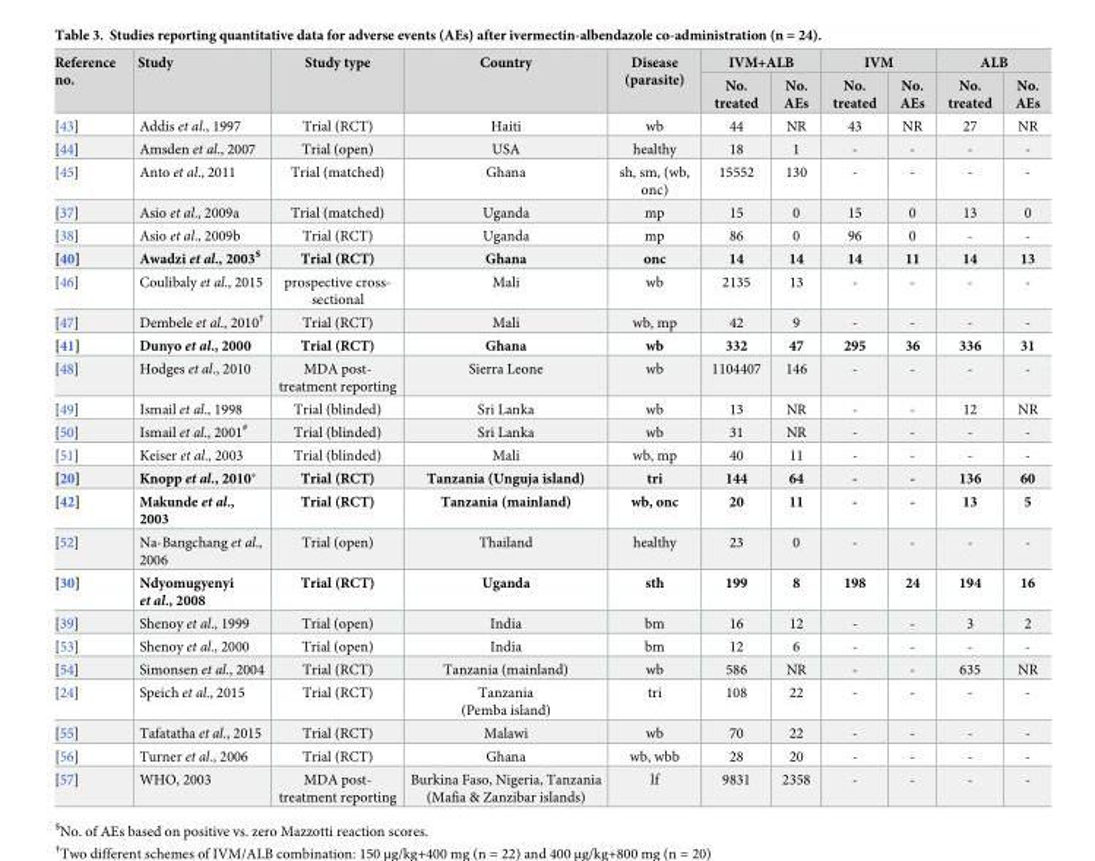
<table><thead><tr><td rowspan="2">Reference no.</td><td rowspan="2">Study</td><td rowspan="2">Study type</td><td rowspan="2">Country</td><td rowspan="2">Disease (parasite)</td><td colspan="2">IVM+ALB</td><td colspan="2">IVM</td><td colspan="2">ALB</td></tr><tr><td>No. treated</td><td>No. AEs</td><td>No. treated</td><td>No. AEs</td><td>No. treated</td><td>No. AEs</td></tr></thead><tbody><tr><td>[43]</td><td>Addis et al., 1997</td><td>Trial (RCT)</td><td>Haiti</td><td>wb</td><td>44</td><td>NR</td><td>43</td><td>NR</td><td>27</td><td>NR</td></tr><tr><td>[44]</td><td>Amsden et al., 2007</td><td>Trial (open)</td><td>USA</td><td>healthy</td><td>18</td><td>1</td><td>-</td><td>-</td><td>-</td><td>-</td></tr><tr><td>[45]</td><td>Anto et al., 2011</td><td>Trial (matched)</td><td>Ghana</td><td>sh, sm, (wb, onc)</td><td>15552</td><td>130</td><td>-</td><td>-</td><td>-</td><td>-</td></tr><tr><td>[37]</td><td>Asio et al., 2009a</td><td>Trial (matched)</td><td>Uganda</td><td>mp</td><td>15</td><td>0</td><td>15</td><td>0</td><td>13</td><td>0</td></tr><tr><td>[38]</td><td>Asio et al., 2009b</td><td>Trial (RCT)</td><td>Uganda</td><td>mp</td><td>86</td><td>0</td><td>96</td><td>0</td><td>-</td><td>-</td></tr><tr><td>[40]</td><td>Awadzi et al., 2003<sup>$</sup></td><td>Trial (RCT)</td><td>Ghana</td><td>onc</td><td>14</td><td>14</td><td>14</td><td>11</td><td>14</td><td>13</td></tr><tr><td>[46]</td><td>Coulibaly et al., 2015</td><td>prospective cross- sectional</td><td>Mali</td><td>wb</td><td>2135</td><td>13</td><td>-</td><td>-</td><td>-</td><td>-</td></tr><tr><td>[47]</td><td>Dembele et al., 2010<sup>†</sup></td><td>Trial (RCT)</td><td>Mali</td><td>wb, mp</td><td>42</td><td>9</td><td>-</td><td>-</td><td>-</td><td>-</td></tr><tr><td>[41]</td><td>Dunyo et al., 2000</td><td>Trial (RCT)</td><td>Ghana</td><td>wb</td><td>332</td><td>47</td><td>295</td><td>36</td><td>336</td><td>31</td></tr><tr><td>[48]</td><td>Hodges et al., 2010</td><td>MDA post- treatment reporting</td><td>Sierra Leone</td><td>wb</td><td>1104407</td><td>146</td><td>-</td><td>-</td><td>-</td><td>-</td></tr><tr><td>[49]</td><td>Ismail et al., 1998</td><td>Trial (blinded)</td><td>Sri Lanka</td><td>wb</td><td>13</td><td>NR</td><td>-</td><td>-</td><td>12</td><td>NR</td></tr><tr><td>[50]</td><td>Ismail et al., 2001<sup>#</sup></td><td>Trial (blinded)</td><td>Sri Lanka</td><td>wb</td><td>31</td><td>NR</td><td>-</td><td>-</td><td>-</td><td>-</td></tr><tr><td>[51]</td><td>Keiser et al., 2003</td><td>Trial (blinded)</td><td>Mali</td><td>wb, mp</td><td>40</td><td>11</td><td>-</td><td>-</td><td>-</td><td>-</td></tr><tr><td>[20]</td><td>Knopp et al., 2010*</td><td>Trial (RCT)</td><td>Tanzania (Unguja island)</td><td>tri</td><td>144</td><td>64</td><td>-</td><td>-</td><td>136</td><td>60</td></tr><tr><td>[42]</td><td>Makunde et al., 2003</td><td>Trial (RCT)</td><td>Tanzania (mainland)</td><td>wb, onc</td><td>20</td><td>11</td><td>-</td><td>-</td><td>13</td><td>5</td></tr><tr><td>[52]</td><td>Na-Bangchang et al., 2006</td><td>Trial (open)</td><td>Thailand</td><td>healthy</td><td>23</td><td>0</td><td>-</td><td>-</td><td>-</td><td>-</td></tr><tr><td>[30]</td><td>Ndyomugyenyi et al., 2008</td><td>Trial (RCT)</td><td>Uganda</td><td>sth</td><td>199</td><td>8</td><td>198</td><td>24</td><td>194</td><td>16</td></tr><tr><td>[39]</td><td>Shenoy et al., 1999</td><td>Trial (open)</td><td>India</td><td>bm</td><td>16</td><td>12</td><td>-</td><td>-</td><td>3</td><td>2</td></tr><tr><td>[53]</td><td>Shenoy et al., 2000</td><td>Trial (open)</td><td>India</td><td>bm</td><td>12</td><td>6</td><td>-</td><td>-</td><td>-</td><td>-</td></tr><tr><td>[54]</td><td>Simonsen et al., 2004</td><td>Trial (RCT)</td><td>Tanzania (mainland)</td><td>wb</td><td>586</td><td>NR</td><td>-</td><td>-</td><td>635</td><td>NR</td></tr><tr><td>[24]</td><td>Speich et al., 2015</td><td>Trial (RCT)</td><td>Tanzania (Pemba island)</td><td>tri</td><td>108</td><td>22</td><td>-</td><td>-</td><td>-</td><td>-</td></tr><tr><td>[55]</td><td>Tafatatha et al., 2015</td><td>Trial (RCT)</td><td>Malawi</td><td>wb</td><td>70</td><td>22</td><td>-</td><td>-</td><td>-</td><td>-</td></tr><tr><td>[56]</td><td>Turner et al., 2006</td><td>Trial (RCT)</td><td>Ghana</td><td>wb, wbb</td><td>28</td><td>20</td><td>-</td><td>-</td><td>-</td><td>-</td></tr><tr><td>[57]</td><td>WHO, 2003</td><td>MDA post- treatment reporting</td><td>Burkina Faso, Nigeria, Tanzania (Mafia &amp; Zanzibar islands)</td><td>lf</td><td>9831</td><td>2358</td><td>-</td><td>-</td><td>-</td><td>-</td></tr></tbody></table>